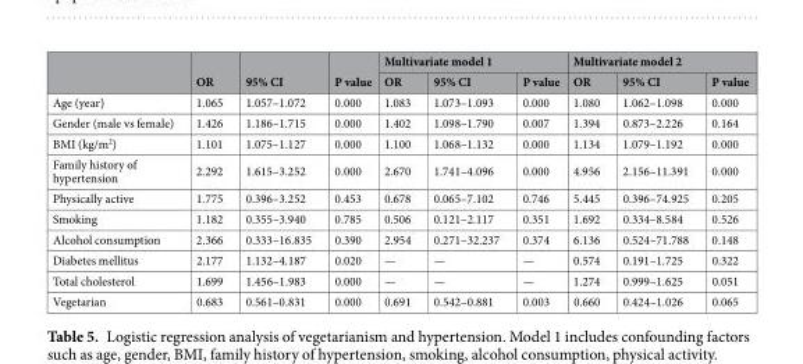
<table><thead><tr><td rowspan="2"></td><td rowspan="2">OR</td><td rowspan="2">95% CI</td><td rowspan="2">P value</td><td colspan="3">Multivariate model 1</td><td colspan="3">Multivariate model 2</td></tr><tr><td>OR</td><td>95% CI</td><td>P value</td><td>OR</td><td>95% CI</td><td>P value</td></tr></thead><tbody><tr><td>Age (year)</td><td>1.065</td><td>1.057–1.072</td><td>0.000</td><td>1.083</td><td>1.073–1.093</td><td>0.000</td><td>1.080</td><td>1.062–1.098</td><td>0.000</td></tr><tr><td>Gender (male vs female)</td><td>1.426</td><td>1.186–1.715</td><td>0.000</td><td>1.402</td><td>1.098–1.790</td><td>0.007</td><td>1.394</td><td>0.873–2.226</td><td>0.164</td></tr><tr><td>BMI (kg/m<sup>2</sup>)</td><td>1.101</td><td>1.075–1.127</td><td>0.000</td><td>1.100</td><td>1.068–1.132</td><td>0.000</td><td>1.134</td><td>1.079–1.192</td><td>0.000</td></tr><tr><td>Family history of hypertension</td><td>2.292</td><td>1.615–3.252</td><td>0.000</td><td>2.670</td><td>1.741–4.096</td><td>0.000</td><td>4.956</td><td>2.156–11.391</td><td>0.000</td></tr><tr><td>Physically active</td><td>1.775</td><td>0.396–3.252</td><td>0.453</td><td>0.678</td><td>0.065–7.102</td><td>0.746</td><td>5.445</td><td>0.396–74.925</td><td>0.205</td></tr><tr><td>Smoking</td><td>1.182</td><td>0.355–3.940</td><td>0.785</td><td>0.506</td><td>0.121–2.117</td><td>0.351</td><td>1.692</td><td>0.334–8.584</td><td>0.526</td></tr><tr><td>Alcohol consumption</td><td>2.366</td><td>0.333–16.835</td><td>0.390</td><td>2.954</td><td>0.271–32.237</td><td>0.374</td><td>6.136</td><td>0.524–71.788</td><td>0.148</td></tr><tr><td>Diabetes mellitus</td><td>2.177</td><td>1.132–4.187</td><td>0.020</td><td>—</td><td>—</td><td>—</td><td>0.574</td><td>0.191–1.725</td><td>0.322</td></tr><tr><td>Total cholesterol</td><td>1.699</td><td>1.456–1.983</td><td>0.000</td><td>—</td><td>—</td><td>—</td><td>1.274</td><td>0.999–1.625</td><td>0.051</td></tr><tr><td>Vegetarian</td><td>0.683</td><td>0.561–0.831</td><td>0.000</td><td>0.691</td><td>0.542–0.881</td><td>0.003</td><td>0.660</td><td>0.424–1.026</td><td>0.065</td></tr></tbody></table>